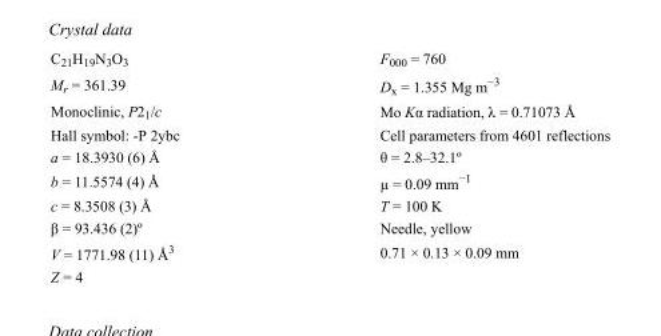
<table><tbody><tr><td>C<sub>21</sub>H<sub>19</sub>N<sub>3</sub>O<sub>3</sub></td><td>F000 = 760</td></tr><tr><td>M<sub>r</sub> = 361.39</td><td>D<sub>x</sub> = 1.355 Mg m<sup>−3</sup></td></tr><tr><td>Monoclinic, P2<sub>1</sub>/c</td><td>Mo Kα radiation, λ = 0.71073 Å</td></tr><tr><td>Hall symbol: -P 2ybc</td><td>Cell parameters from 4601 reflections</td></tr><tr><td>a = 18.3930 (6) Å</td><td>θ = 2.8–32.1º</td></tr><tr><td>b = 11.5574 (4) Å</td><td>µ = 0.09 mm<sup>−1</sup></td></tr><tr><td>c = 8.3508 (3) Å</td><td>T = 100 K</td></tr><tr><td>β = 93.436 (2)º</td><td>Needle, yellow</td></tr><tr><td>V = 1771.98 (11) Å<sup>3</sup></td><td>0.71 × 0.13 × 0.09 mm</td></tr><tr><td>Z = 4</td><td></td></tr></tbody></table>